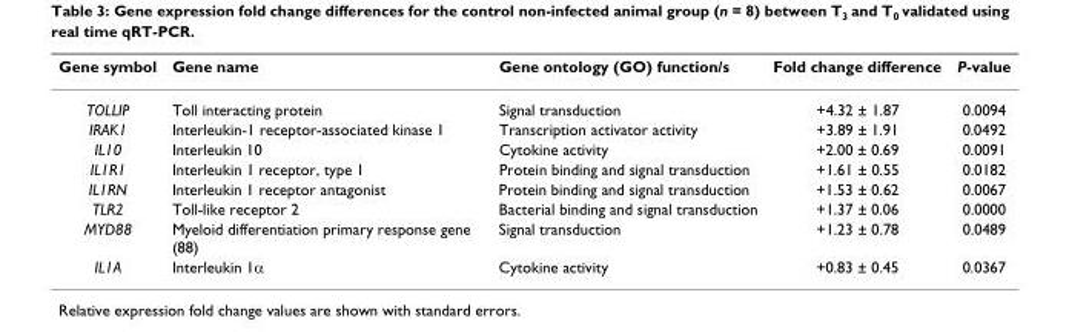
<table><thead><tr><td>Gene symbol</td><td>Gene name</td><td>Gene ontology (GO) function/s</td><td>Fold change difference</td><td>P-value</td></tr></thead><tbody><tr><td>TOLLIP</td><td>Toll interacting protein</td><td>Signal transduction</td><td>+4.32 ± 1.87</td><td>0.0094</td></tr><tr><td>IRAK1</td><td>Interleukin-1 receptor-associated kinase 1</td><td>Transcription activator activity</td><td>+3.89 ± 1.91</td><td>0.0492</td></tr><tr><td>IL10</td><td>Interleukin 10</td><td>Cytokine activity</td><td>+2.00 ± 0.69</td><td>0.0091</td></tr><tr><td>IL1R1</td><td>Interleukin 1 receptor, type 1</td><td>Protein binding and signal transduction</td><td>+1.61 ± 0.55</td><td>0.0182</td></tr><tr><td>IL1RN</td><td>Interleukin 1 receptor antagonist</td><td>Protein binding and signal transduction</td><td>+1.53 ± 0.62</td><td>0.0067</td></tr><tr><td>TLR2</td><td>Toll-like receptor 2</td><td>Bacterial binding and signal transduction</td><td>+1.37 ± 0.06</td><td>0.0000</td></tr><tr><td>MYD88</td><td>Myeloid differentiation primary response gene (88)</td><td>Signal transduction</td><td>+1.23 ± 0.78</td><td>0.0489</td></tr><tr><td>IL1A</td><td>Interleukin 1α</td><td>Cytokine activity</td><td>+0.83 ± 0.45</td><td>0.0367</td></tr></tbody></table>